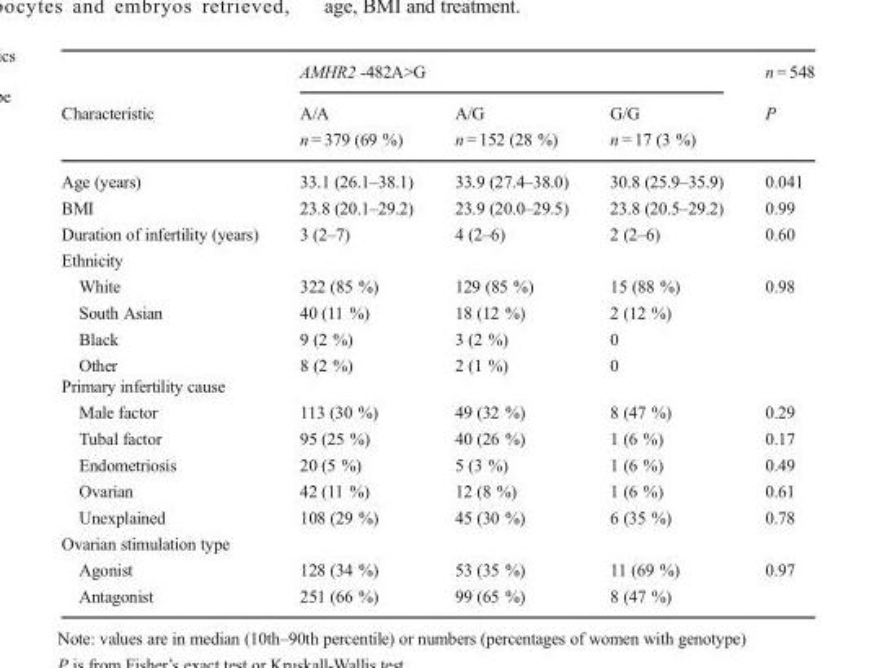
<table><thead><tr><td rowspan="2">Characteristic</td><td colspan="3">AMHR2 -482A&gt;G</td><td rowspan="2">n = 548 P</td></tr><tr><td>A/A n = 379 (69 %)</td><td>A/G n = 152 (28 %)</td><td>G/G n = 17 (3 %)</td></tr></thead><tbody><tr><td>Age (years)</td><td>33.1 (26.1–38.1)</td><td>33.9 (27.4–38.0)</td><td>30.8 (25.9–35.9)</td><td>0.041</td></tr><tr><td>BMI</td><td>23.8 (20.1–29.2)</td><td>23.9 (20.0–29.5)</td><td>23.8 (20.5–29.2)</td><td>0.99</td></tr><tr><td>Duration of infertility (years)</td><td>3 (2–7)</td><td>4 (2–6)</td><td>2 (2–6)</td><td>0.60</td></tr><tr><td colspan="5">Ethnicity</td></tr><tr><td>White South Asian Black Other</td><td>322 (85 %) 40 (11 %) 9 (2 %) 8 (2 %)</td><td>129 (85 %) 18 (12 %) 3 (2 %) 2 (1 %)</td><td>15 (88 %) 2 (12 %) 0 0</td><td>0.98</td></tr><tr><td colspan="5">Primary infertility cause</td></tr><tr><td>Male factor Tubal factor Endometriosis Ovarian Unexplained</td><td>113 (30 %) 95 (25 %) 20 (5 %) 42 (11 %) 108 (29 %)</td><td>49 (32 %) 40 (26 %) 5 (3 %) 12 (8 %) 45 (30 %)</td><td>8 (47 %) 1 (6 %) 1 (6 %) 1 (6 %) 6 (35 %)</td><td>0.29 0.17 0.49 0.61 0.78</td></tr><tr><td colspan="5">Ovarian stimulation type</td></tr><tr><td>Agonist Antagonist</td><td>128 (34 %) 251 (66 %)</td><td>53 (35 %) 99 (65 %)</td><td>11 (69 %) 8 (47 %)</td><td>0.97</td></tr></tbody></table>